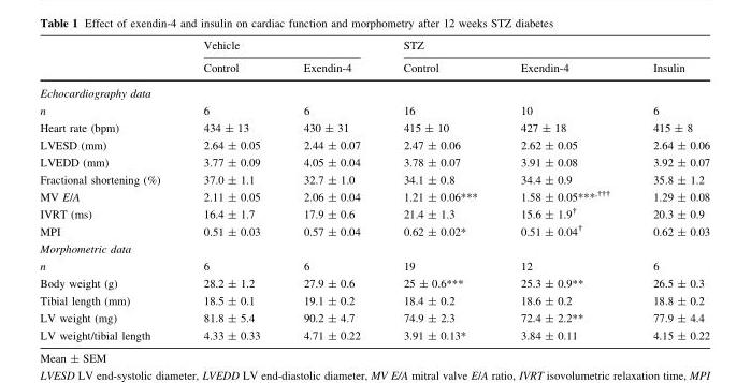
<table><thead><tr><td rowspan="2"></td><td colspan="2">Vehicle</td><td colspan="3">STZ</td></tr><tr><td>Control</td><td>Exendin-4</td><td>Control</td><td>Exendin-4</td><td>Insulin</td></tr></thead><tbody><tr><td colspan="6">Echocardiography data</td></tr><tr><td>n</td><td>6</td><td>6</td><td>16</td><td>10</td><td>6</td></tr><tr><td>Heart rate (bpm)</td><td>434 ± 13</td><td>430 ± 31</td><td>415 ± 10</td><td>427 ± 18</td><td>415 ± 8</td></tr><tr><td>LVESD (mm)</td><td>2.64 ± 0.05</td><td>2.44 ± 0.07</td><td>2.47 ± 0.06</td><td>2.62 ± 0.05</td><td>2.64 ± 0.06</td></tr><tr><td>LVEDD (mm)</td><td>3.77 ± 0.09</td><td>4.05 ± 0.04</td><td>3.78 ± 0.07</td><td>3.91 ± 0.08</td><td>3.92 ± 0.07</td></tr><tr><td>Fractional shortening (%)</td><td>37.0 ± 1.1</td><td>32.7 ± 1.0</td><td>34.1 ± 0.8</td><td>34.4 ± 0.9</td><td>35.8 ± 1.2</td></tr><tr><td>MV E/A</td><td>2.11 ± 0.05</td><td>2.06 ± 0.04</td><td>1.21 ± 0.06***</td><td>1.58 ± 0.05***<sup>,†††</sup></td><td>1.29 ± 0.08</td></tr><tr><td>IVRT (ms)</td><td>16.4 ± 1.7</td><td>17.9 ± 0.6</td><td>21.4 ± 1.3</td><td>15.6 ± 1.9<sup>†</sup></td><td>20.3 ± 0.9</td></tr><tr><td>MPI</td><td>0.51 ± 0.03</td><td>0.57 ± 0.04</td><td>0.62 ± 0.02*</td><td>0.51 ± 0.04<sup>†</sup></td><td>0.62 ± 0.03</td></tr><tr><td colspan="6">Morphometric data</td></tr><tr><td>n</td><td>6</td><td>6</td><td>19</td><td>12</td><td>6</td></tr><tr><td>Body weight (g)</td><td>28.2 ± 1.2</td><td>27.9 ± 0.6</td><td>25 ± 0.6***</td><td>25.3 ± 0.9**</td><td>26.5 ± 0.3</td></tr><tr><td>Tibial length (mm)</td><td>18.5 ± 0.1</td><td>19.1 ± 0.2</td><td>18.4 ± 0.2</td><td>18.6 ± 0.2</td><td>18.8 ± 0.2</td></tr><tr><td>LV weight (mg)</td><td>81.8 ± 5.4</td><td>90.2 ± 4.7</td><td>74.9 ± 2.3</td><td>72.4 ± 2.2**</td><td>77.9 ± 4.4</td></tr><tr><td>LV weight/tibial length</td><td>4.33 ± 0.33</td><td>4.71 ± 0.22</td><td>3.91 ± 0.13*</td><td>3.84 ± 0.11</td><td>4.15 ± 0.22</td></tr></tbody></table>